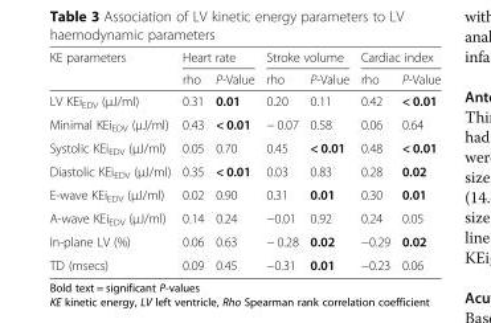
<table><thead><tr><td rowspan="2">KE parameters</td><td colspan="2">Heart rate</td><td colspan="2">Stroke volume</td><td colspan="2">Cardiac index</td></tr><tr><td>rho</td><td>P-Value</td><td>rho</td><td>P-Value</td><td>rho</td><td>P-Value</td></tr></thead><tbody><tr><td>LV KEi<sub>EDV</sub> (μJ/ml)</td><td>0.31</td><td>0.01</td><td>0.20</td><td>0.11</td><td>0.42</td><td>&lt; 0.01</td></tr><tr><td>Minimal KEi<sub>EDV</sub> (μJ/ml)</td><td>0.43</td><td>&lt; 0.01</td><td>− 0.07</td><td>0.58</td><td>0.06</td><td>0.64</td></tr><tr><td>Systolic KEi<sub>EDV</sub> (μJ/ml)</td><td>0.05</td><td>0.70</td><td>0.45</td><td>&lt; 0.01</td><td>0.48</td><td>&lt; 0.01</td></tr><tr><td>Diastolic KEi<sub>EDV</sub> (μJ/ml)</td><td>0.35</td><td>&lt; 0.01</td><td>0.03</td><td>0.83</td><td>0.28</td><td>0.02</td></tr><tr><td>E-wave KEi<sub>EDV</sub> (μJ/ml)</td><td>0.02</td><td>0.90</td><td>0.31</td><td>0.01</td><td>0.30</td><td>0.01</td></tr><tr><td>A-wave KEi<sub>EDV</sub> (μJ/ml)</td><td>0.14</td><td>0.24</td><td>−0.01</td><td>0.92</td><td>0.24</td><td>0.05</td></tr><tr><td>In-plane LV (%)</td><td>0.06</td><td>0.63</td><td>− 0.28</td><td>0.02</td><td>−0.29</td><td>0.02</td></tr><tr><td>TD (msecs)</td><td>0.09</td><td>0.45</td><td>−0.31</td><td>0.01</td><td>−0.23</td><td>0.06</td></tr></tbody></table>